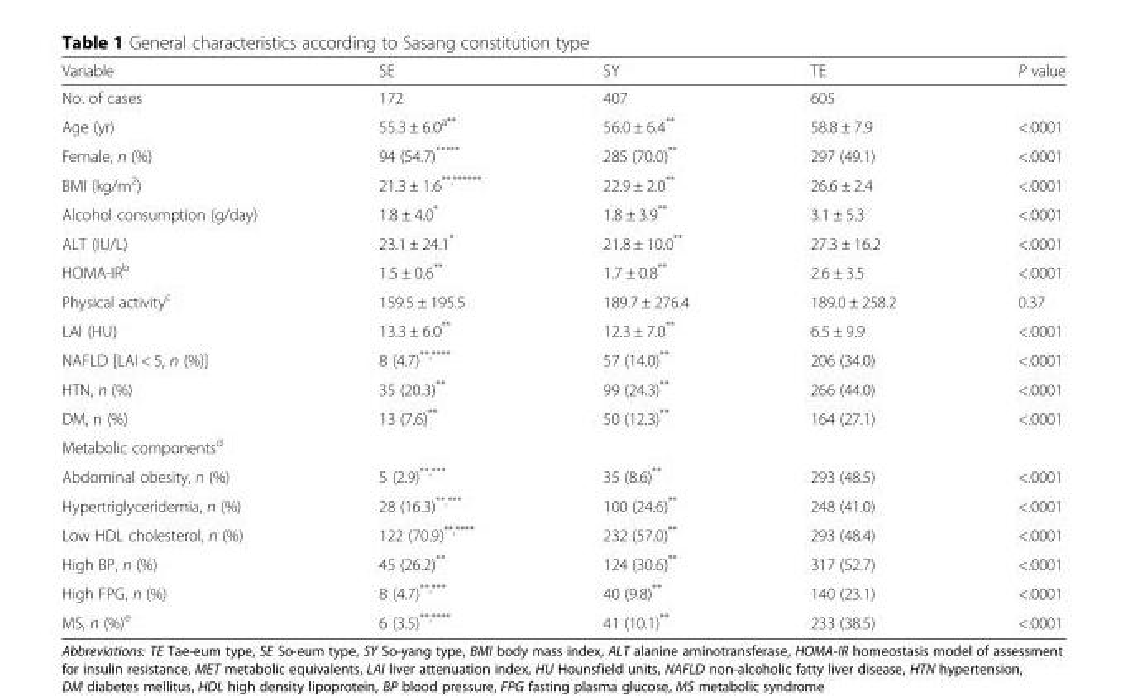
<table><thead><tr><td>Variable</td><td>SE</td><td>SY</td><td>TE</td><td>P value</td></tr></thead><tbody><tr><td>No. of cases</td><td>172</td><td>407</td><td>605</td><td></td></tr><tr><td>Age (yr)</td><td>55.3 ± 6.0<sup>a**</sup></td><td>56.0 ± 6.4**</td><td>58.8 ± 7.9</td><td>&lt;.0001</td></tr><tr><td>Female, n (%)</td><td>94 (54.7)*****</td><td>285 (70.0)**</td><td>297 (49.1)</td><td>&lt;.0001</td></tr><tr><td>BMI (kg/m<sup>2</sup>)</td><td>21.3 ± 1.6<sup>**,******</sup></td><td>22.9 ± 2.0**</td><td>26.6 ± 2.4</td><td>&lt;.0001</td></tr><tr><td>Alcohol consumption (g/day)</td><td>1.8 ± 4.0*</td><td>1.8 ± 3.9**</td><td>3.1 ± 5.3</td><td>&lt;.0001</td></tr><tr><td>ALT (IU/L)</td><td>23.1 ± 24.1*</td><td>21.8 ± 10.0**</td><td>27.3 ± 16.2</td><td>&lt;.0001</td></tr><tr><td>HOMA-IR<sup>b</sup></td><td>1.5 ± 0.6**</td><td>1.7 ± 0.8**</td><td>2.6 ± 3.5</td><td>&lt;.0001</td></tr><tr><td>Physical activity<sup>c</sup></td><td>159.5 ± 195.5</td><td>189.7 ± 276.4</td><td>189.0 ± 258.2</td><td>0.37</td></tr><tr><td>LAI (HU)</td><td>13.3 ± 6.0**</td><td>12.3 ± 7.0**</td><td>6.5 ± 9.9</td><td>&lt;.0001</td></tr><tr><td>NAFLD [LAI &lt; 5, n (%)]</td><td>8 (4.7)<sup>**,****</sup></td><td>57 (14.0)**</td><td>206 (34.0)</td><td>&lt;.0001</td></tr><tr><td>HTN, n (%)</td><td>35 (20.3)**</td><td>99 (24.3)**</td><td>266 (44.0)</td><td>&lt;.0001</td></tr><tr><td>DM, n (%)</td><td>13 (7.6)**</td><td>50 (12.3)**</td><td>164 (27.1)</td><td>&lt;.0001</td></tr><tr><td colspan="5">Metabolic components<sup>d</sup></td></tr><tr><td>Abdominal obesity, n (%)</td><td>5 (2.9)<sup>**,***</sup></td><td>35 (8.6)**</td><td>293 (48.5)</td><td>&lt;.0001</td></tr><tr><td>Hypertriglyceridemia, n (%)</td><td>28 (16.3)<sup>**,***</sup></td><td>100 (24.6)**</td><td>248 (41.0)</td><td>&lt;.0001</td></tr><tr><td>Low HDL cholesterol, n (%)</td><td>122 (70.9)<sup>**,****</sup></td><td>232 (57.0)**</td><td>293 (48.4)</td><td>&lt;.0001</td></tr><tr><td>High BP, n (%)</td><td>45 (26.2)**</td><td>124 (30.6)**</td><td>317 (52.7)</td><td>&lt;.0001</td></tr><tr><td>High FPG, n (%)</td><td>8 (4.7)<sup>**,***</sup></td><td>40 (9.8)**</td><td>140 (23.1)</td><td>&lt;.0001</td></tr><tr><td>MS, n (%)<sup>e</sup></td><td>6 (3.5)<sup>**,****</sup></td><td>41 (10.1)**</td><td>233 (38.5)</td><td>&lt;.0001</td></tr></tbody></table>